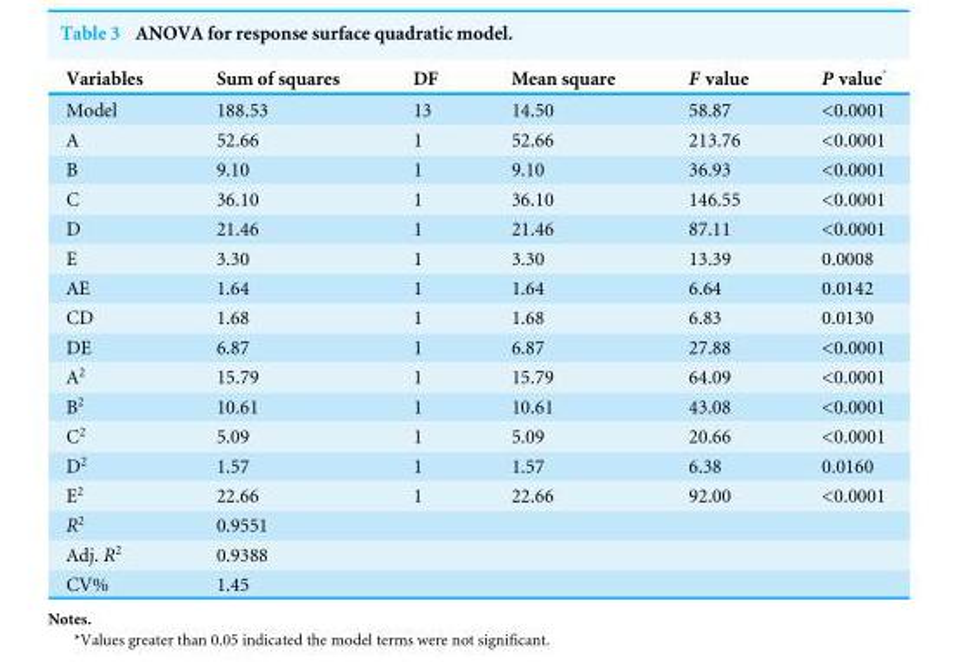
<table><thead><tr><td>Variables</td><td>Sum of squares</td><td>DF</td><td>Mean square</td><td>F value</td><td>P value*</td></tr></thead><tbody><tr><td>Model</td><td>188.53</td><td>13</td><td>14.50</td><td>58.87</td><td>&lt;0.0001</td></tr><tr><td>A</td><td>52.66</td><td>1</td><td>52.66</td><td>213.76</td><td>&lt;0.0001</td></tr><tr><td>B</td><td>9.10</td><td>1</td><td>9.10</td><td>36.93</td><td>&lt;0.0001</td></tr><tr><td>C</td><td>36.10</td><td>1</td><td>36.10</td><td>146.55</td><td>&lt;0.0001</td></tr><tr><td>D</td><td>21.46</td><td>1</td><td>21.46</td><td>87.11</td><td>&lt;0.0001</td></tr><tr><td>E</td><td>3.30</td><td>1</td><td>3.30</td><td>13.39</td><td>0.0008</td></tr><tr><td>AE</td><td>1.64</td><td>1</td><td>1.64</td><td>6.64</td><td>0.0142</td></tr><tr><td>CD</td><td>1.68</td><td>1</td><td>1.68</td><td>6.83</td><td>0.0130</td></tr><tr><td>DE</td><td>6.87</td><td>1</td><td>6.87</td><td>27.88</td><td>&lt;0.0001</td></tr><tr><td>A<sup>2</sup></td><td>15.79</td><td>1</td><td>15.79</td><td>64.09</td><td>&lt;0.0001</td></tr><tr><td>B<sup>2</sup></td><td>10.61</td><td>1</td><td>10.61</td><td>43.08</td><td>&lt;0.0001</td></tr><tr><td>C<sup>2</sup></td><td>5.09</td><td>1</td><td>5.09</td><td>20.66</td><td>&lt;0.0001</td></tr><tr><td>D<sup>2</sup></td><td>1.57</td><td>1</td><td>1.57</td><td>6.38</td><td>0.0160</td></tr><tr><td>E<sup>2</sup></td><td>22.66</td><td>1</td><td>22.66</td><td>92.00</td><td>&lt;0.0001</td></tr><tr><td>R<sup>2</sup></td><td>0.9551</td><td></td><td></td><td></td><td></td></tr><tr><td>Adj. R<sup>2</sup></td><td>0.9388</td><td></td><td></td><td></td><td></td></tr><tr><td>CV%</td><td>1.45</td><td></td><td></td><td></td><td></td></tr></tbody></table>